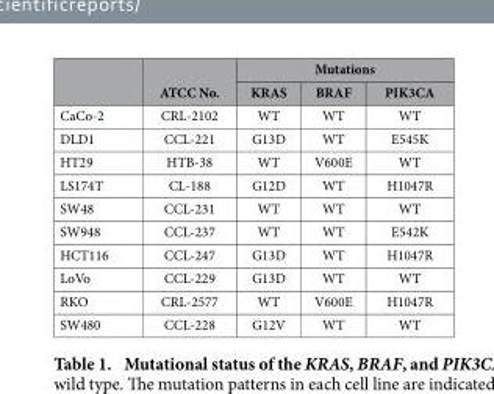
<table><thead><tr><td rowspan="2"></td><td rowspan="2">ATCC No.</td><td colspan="3">Mutations</td></tr><tr><td>KRAS</td><td>BRAF</td><td>PIK3CA</td></tr></thead><tbody><tr><td>CaCo-2</td><td>CRL-2102</td><td>WT</td><td>WT</td><td>WT</td></tr><tr><td>DLD1</td><td>CCL-221</td><td>G13D</td><td>WT</td><td>E545K</td></tr><tr><td>HT29</td><td>HTB-38</td><td>WT</td><td>V600E</td><td>WT</td></tr><tr><td>LS174T</td><td>CL-188</td><td>G12D</td><td>WT</td><td>H1047R</td></tr><tr><td>SW48</td><td>CCL-231</td><td>WT</td><td>WT</td><td>WT</td></tr><tr><td>SW948</td><td>CCL-237</td><td>WT</td><td>WT</td><td>E542K</td></tr><tr><td>HCT116</td><td>CCL-247</td><td>G13D</td><td>WT</td><td>H1047R</td></tr><tr><td>LoVo</td><td>CCL-229</td><td>G13D</td><td>WT</td><td>WT</td></tr><tr><td>RKO</td><td>CRL-2577</td><td>WT</td><td>V600E</td><td>H1047R</td></tr><tr><td>SW480</td><td>CCL-228</td><td>G12V</td><td>WT</td><td>WT</td></tr></tbody></table>